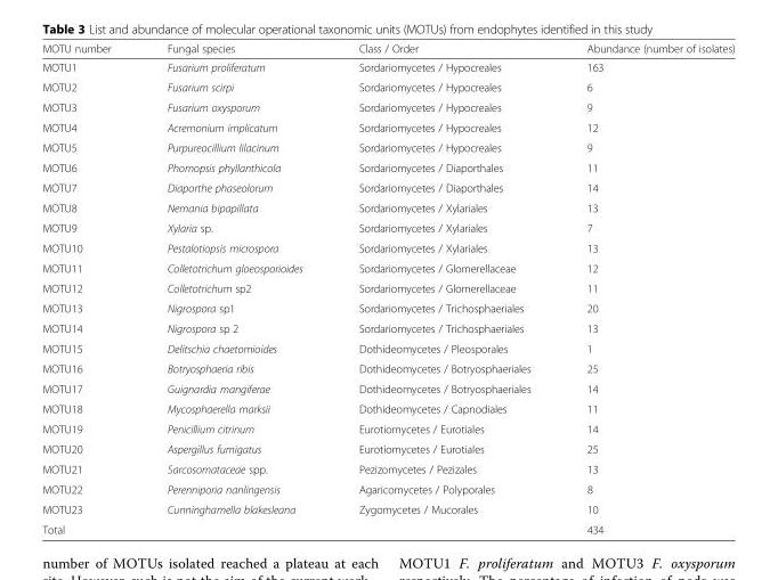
<table><thead><tr><td>MOTU number</td><td>Fungal species</td><td>Class / Order</td><td>Abundance (number of isolates)</td></tr></thead><tbody><tr><td>MOTU1</td><td>Fusarium proliferatum</td><td>Sordariomycetes / Hypocreales</td><td>163</td></tr><tr><td>MOTU2</td><td>Fusarium scirpi</td><td>Sordariomycetes / Hypocreales</td><td>6</td></tr><tr><td>MOTU3</td><td>Fusarium oxysporum</td><td>Sordariomycetes / Hypocreales</td><td>9</td></tr><tr><td>MOTU4</td><td>Acremonium implicatum</td><td>Sordariomycetes / Hypocreales</td><td>12</td></tr><tr><td>MOTU5</td><td>Purpureocillium lilacinum</td><td>Sordariomycetes / Hypocreales</td><td>9</td></tr><tr><td>MOTU6</td><td>Phomopsis phyllanthicola</td><td>Sordariomycetes / Diaporthales</td><td>11</td></tr><tr><td>MOTU7</td><td>Diaporthe phaseolorum</td><td>Sordariomycetes / Diaporthales</td><td>14</td></tr><tr><td>MOTU8</td><td>Nemania bipapillata</td><td>Sordariomycetes / Xylariales</td><td>13</td></tr><tr><td>MOTU9</td><td>Xylaria sp.</td><td>Sordariomycetes / Xylariales</td><td>7</td></tr><tr><td>MOTU10</td><td>Pestalotiopsis microspora</td><td>Sordariomycetes / Xylariales</td><td>13</td></tr><tr><td>MOTU11</td><td>Colletotrichum gloeosporioides</td><td>Sordariomycetes / Glomerellaceae</td><td>12</td></tr><tr><td>MOTU12</td><td>Colletotrichum sp2</td><td>Sordariomycetes / Glomerellaceae</td><td>11</td></tr><tr><td>MOTU13</td><td>Nigrospora sp1</td><td>Sordariomycetes / Trichosphaeriales</td><td>20</td></tr><tr><td>MOTU14</td><td>Nigrospora sp 2</td><td>Sordariomycetes / Trichosphaeriales</td><td>13</td></tr><tr><td>MOTU15</td><td>Delitschia chaetomioides</td><td>Dothideomycetes / Pleosporales</td><td>1</td></tr><tr><td>MOTU16</td><td>Botryosphaeria ribis</td><td>Dothideomycetes / Botryosphaeriales</td><td>25</td></tr><tr><td>MOTU17</td><td>Guignardia mangiferae</td><td>Dothideomycetes / Botryosphaeriales</td><td>14</td></tr><tr><td>MOTU18</td><td>Mycosphaerella marksii</td><td>Dothideomycetes / Capnodiales</td><td>11</td></tr><tr><td>MOTU19</td><td>Penicillium citrinum</td><td>Eurotiomycetes / Eurotiales</td><td>14</td></tr><tr><td>MOTU20</td><td>Aspergillus fumigatus</td><td>Eurotiomycetes / Eurotiales</td><td>25</td></tr><tr><td>MOTU21</td><td>Sarcosomataceae spp.</td><td>Pezizomycetes / Pezizales</td><td>13</td></tr><tr><td>MOTU22</td><td>Perenniporia nanlingensis</td><td>Agaricomycetes / Polyporales</td><td>8</td></tr><tr><td>MOTU23</td><td>Cunninghamella blakesleana</td><td>Zygomycetes / Mucorales</td><td>10</td></tr><tr><td>Total</td><td></td><td></td><td>434</td></tr></tbody></table>